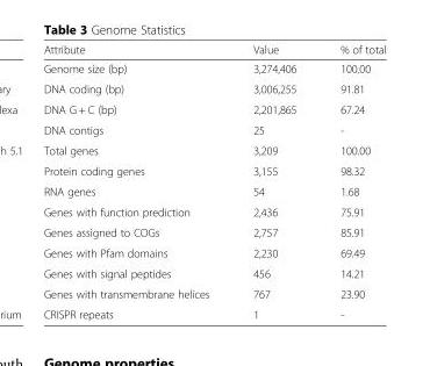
<table><thead><tr><td>Attribute</td><td>Value</td><td>% of total</td></tr></thead><tbody><tr><td>Genome size (bp)</td><td>3,274,406</td><td>100.00</td></tr><tr><td>DNA coding (bp)</td><td>3,006,255</td><td>91.81</td></tr><tr><td>DNA G + C (bp)</td><td>2,201,865</td><td>67.24</td></tr><tr><td>DNA contigs</td><td>25</td><td>-</td></tr><tr><td>Total genes</td><td>3,209</td><td>100.00</td></tr><tr><td>Protein coding genes</td><td>3,155</td><td>98.32</td></tr><tr><td>RNA genes</td><td>54</td><td>1.68</td></tr><tr><td>Genes with function prediction</td><td>2,436</td><td>75.91</td></tr><tr><td>Genes assigned to COGs</td><td>2,757</td><td>85.91</td></tr><tr><td>Genes with Pfam domains</td><td>2,230</td><td>69.49</td></tr><tr><td>Genes with signal peptides</td><td>456</td><td>14.21</td></tr><tr><td>Genes with transmembrane helices</td><td>767</td><td>23.90</td></tr><tr><td>CRISPR repeats</td><td>1</td><td>-</td></tr></tbody></table>